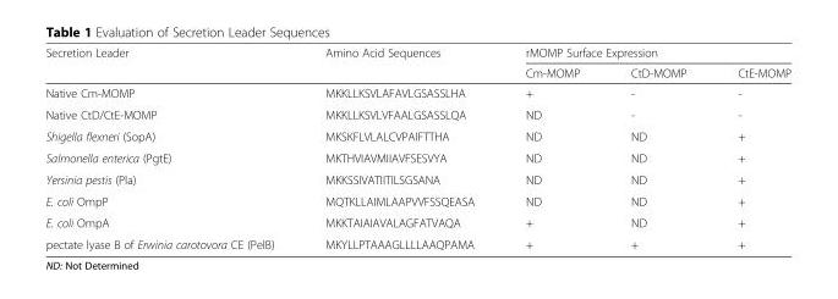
<table><thead><tr><td rowspan="2">Secretion Leader</td><td rowspan="2">Amino Acid Sequences</td><td colspan="3">rMOMP Surface Expression</td></tr><tr><td>Cm-MOMP</td><td>CtD-MOMP</td><td>CtE-MOMP</td></tr></thead><tbody><tr><td>Native Cm-MOMP</td><td>MKKLLKSVLAFAVLGSASSLHA</td><td>+</td><td>-</td><td>-</td></tr><tr><td>Native CtD/CtE-MOMP</td><td>MKKLLKSVLVFAALGSASSLQA</td><td>ND</td><td>-</td><td>-</td></tr><tr><td>Shigella flexneri (SopA)</td><td>MKSKFLVLALCVPAIFTTHA</td><td>ND</td><td>ND</td><td>+</td></tr><tr><td>Salmonella enterica (PgtE)</td><td>MKTHVIAVMIIAVFSESVYA</td><td>ND</td><td>ND</td><td>+</td></tr><tr><td>Yersinia pestis (Pla)</td><td>MKKSSIVATIITILSGSANA</td><td>ND</td><td>ND</td><td>+</td></tr><tr><td>E. coli OmpP</td><td>MQTKLLAIMLAAPVVFSSQEASA</td><td>ND</td><td>ND</td><td>+</td></tr><tr><td>E. coli OmpA</td><td>MKKTAIAIAVALAGFATVAQA</td><td>+</td><td>ND</td><td>+</td></tr><tr><td>pectate lyase B of Erwinia carotovora CE (PelB)</td><td>MKYLLPTAAAGLLLLAAQPAMA</td><td>+</td><td>+</td><td>+</td></tr></tbody></table>